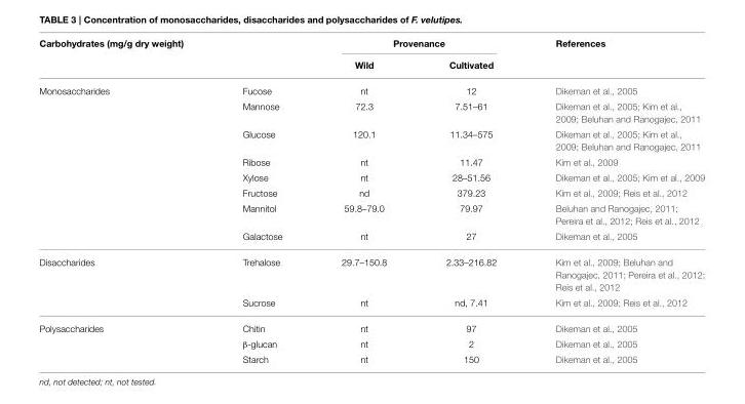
<table><thead><tr><td rowspan="2">Carbohydrates (mg/g dry weight)</td><td rowspan="2"></td><td colspan="2">Provenance</td><td rowspan="2">References</td></tr><tr><td>Wild</td><td>Cultivated</td></tr></thead><tbody><tr><td rowspan="8">Monosaccharides</td><td>Fucose</td><td>nt</td><td>12</td><td>Dikeman et al., 2005</td></tr><tr><td>Mannose</td><td>72.3</td><td>7.51–61</td><td>Dikeman et al., 2005; Kim et al., 2009; Beluhan and Ranogajec, 2011</td></tr><tr><td>Glucose</td><td>120.1</td><td>11.34–575</td><td>Dikeman et al., 2005; Kim et al., 2009; Beluhan and Ranogajec, 2011</td></tr><tr><td>Ribose</td><td>nt</td><td>11.47</td><td>Kim et al., 2009</td></tr><tr><td>Xylose</td><td>nt</td><td>28–51.56</td><td>Dikeman et al., 2005; Kim et al., 2009</td></tr><tr><td>Fructose</td><td>nd</td><td>379.23</td><td>Kim et al., 2009; Reis et al., 2012</td></tr><tr><td>Mannitol</td><td>59.8–79.0</td><td>79.97</td><td>Beluhan and Ranogajec, 2011; Pereira et al., 2012; Reis et al., 2012</td></tr><tr><td>Galactose</td><td>nt</td><td>27</td><td>Dikeman et al., 2005</td></tr><tr><td rowspan="2">Disaccharides</td><td>Trehalose</td><td>29.7–150.8</td><td>2.33–216.82</td><td>Kim et al., 2009; Beluhan and Ranogajec, 2011; Pereira et al., 2012; Reis et al., 2012</td></tr><tr><td>Sucrose</td><td>nt</td><td>nd, 7.41</td><td>Kim et al., 2009; Reis et al., 2012</td></tr><tr><td rowspan="3">Polysaccharides</td><td>Chitin</td><td>nt</td><td>97</td><td>Dikeman et al., 2005</td></tr><tr><td>β-glucan</td><td>nt</td><td>2</td><td>Dikeman et al., 2005</td></tr><tr><td>Starch</td><td>nt</td><td>150</td><td>Dikeman et al., 2005</td></tr></tbody></table>